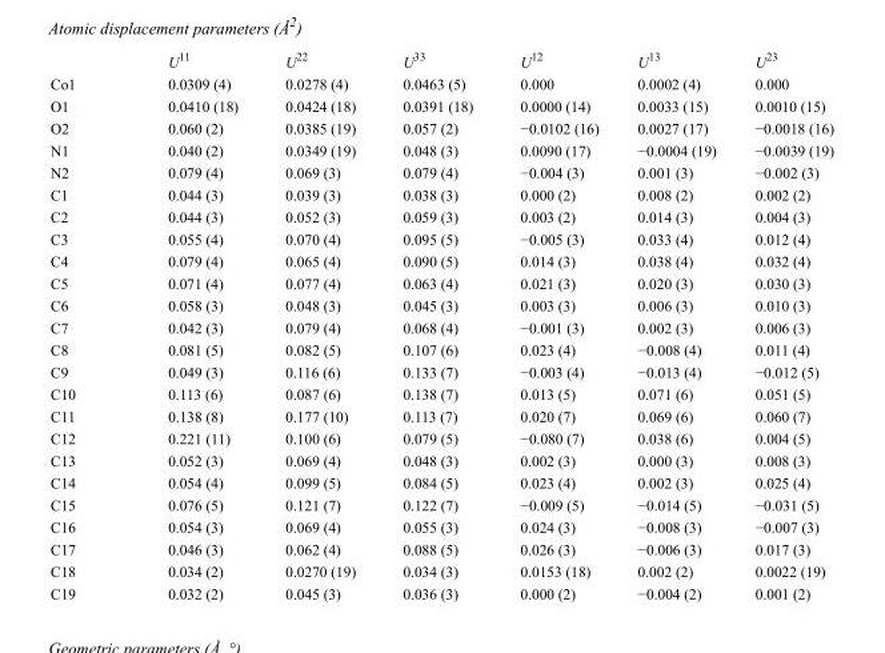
<table><thead><tr><td></td><td>U<sup>11</sup></td><td>U<sup>22</sup></td><td>U<sup>33</sup></td><td>U<sup>12</sup></td><td>U<sup>13</sup></td><td>U<sup>23</sup></td></tr></thead><tbody><tr><td>Co1</td><td>0.0309 (4)</td><td>0.0278 (4)</td><td>0.0463 (5)</td><td>0.000</td><td>0.0002 (4)</td><td>0.000</td></tr><tr><td>O1</td><td>0.0410 (18)</td><td>0.0424 (18)</td><td>0.0391 (18)</td><td>0.0000 (14)</td><td>0.0033 (15)</td><td>0.0010 (15)</td></tr><tr><td>O2</td><td>0.060 (2)</td><td>0.0385 (19)</td><td>0.057 (2)</td><td>−0.0102 (16)</td><td>0.0027 (17)</td><td>−0.0018 (16)</td></tr><tr><td>N1</td><td>0.040 (2)</td><td>0.0349 (19)</td><td>0.048 (3)</td><td>0.0090 (17)</td><td>−0.0004 (19)</td><td>−0.0039 (19)</td></tr><tr><td>N2</td><td>0.079 (4)</td><td>0.069 (3)</td><td>0.079 (4)</td><td>−0.004 (3)</td><td>0.001 (3)</td><td>−0.002 (3)</td></tr><tr><td>C1</td><td>0.044 (3)</td><td>0.039 (3)</td><td>0.038 (3)</td><td>0.000 (2)</td><td>0.008 (2)</td><td>0.002 (2)</td></tr><tr><td>C2</td><td>0.044 (3)</td><td>0.052 (3)</td><td>0.059 (3)</td><td>0.003 (2)</td><td>0.014 (3)</td><td>0.004 (3)</td></tr><tr><td>C3</td><td>0.055 (4)</td><td>0.070 (4)</td><td>0.095 (5)</td><td>−0.005 (3)</td><td>0.033 (4)</td><td>0.012 (4)</td></tr><tr><td>C4</td><td>0.079 (4)</td><td>0.065 (4)</td><td>0.090 (5)</td><td>0.014 (3)</td><td>0.038 (4)</td><td>0.032 (4)</td></tr><tr><td>C5</td><td>0.071 (4)</td><td>0.077 (4)</td><td>0.063 (4)</td><td>0.021 (3)</td><td>0.020 (3)</td><td>0.030 (3)</td></tr><tr><td>C6</td><td>0.058 (3)</td><td>0.048 (3)</td><td>0.045 (3)</td><td>0.003 (3)</td><td>0.006 (3)</td><td>0.010 (3)</td></tr><tr><td>C7</td><td>0.042 (3)</td><td>0.079 (4)</td><td>0.068 (4)</td><td>−0.001 (3)</td><td>0.002 (3)</td><td>0.006 (3)</td></tr><tr><td>C8</td><td>0.081 (5)</td><td>0.082 (5)</td><td>0.107 (6)</td><td>0.023 (4)</td><td>−0.008 (4)</td><td>0.011 (4)</td></tr><tr><td>C9</td><td>0.049 (3)</td><td>0.116 (6)</td><td>0.133 (7)</td><td>−0.003 (4)</td><td>−0.013 (4)</td><td>−0.012 (5)</td></tr><tr><td>C10</td><td>0.113 (6)</td><td>0.087 (6)</td><td>0.138 (7)</td><td>0.013 (5)</td><td>0.071 (6)</td><td>0.051 (5)</td></tr><tr><td>C11</td><td>0.138 (8)</td><td>0.177 (10)</td><td>0.113 (7)</td><td>0.020 (7)</td><td>0.069 (6)</td><td>0.060 (7)</td></tr><tr><td>C12</td><td>0.221 (11)</td><td>0.100 (6)</td><td>0.079 (5)</td><td>−0.080 (7)</td><td>0.038 (6)</td><td>0.004 (5)</td></tr><tr><td>C13</td><td>0.052 (3)</td><td>0.069 (4)</td><td>0.048 (3)</td><td>0.002 (3)</td><td>0.000 (3)</td><td>0.008 (3)</td></tr><tr><td>C14</td><td>0.054 (4)</td><td>0.099 (5)</td><td>0.084 (5)</td><td>0.023 (4)</td><td>0.002 (3)</td><td>0.025 (4)</td></tr><tr><td>C15</td><td>0.076 (5)</td><td>0.121 (7)</td><td>0.122 (7)</td><td>−0.009 (5)</td><td>−0.014 (5)</td><td>−0.031 (5)</td></tr><tr><td>C16</td><td>0.054 (3)</td><td>0.069 (4)</td><td>0.055 (3)</td><td>0.024 (3)</td><td>−0.008 (3)</td><td>−0.007 (3)</td></tr><tr><td>C17</td><td>0.046 (3)</td><td>0.062 (4)</td><td>0.088 (5)</td><td>0.026 (3)</td><td>−0.006 (3)</td><td>0.017 (3)</td></tr><tr><td>C18</td><td>0.034 (2)</td><td>0.0270 (19)</td><td>0.034 (3)</td><td>0.0153 (18)</td><td>0.002 (2)</td><td>0.0022 (19)</td></tr><tr><td>C19</td><td>0.032 (2)</td><td>0.045 (3)</td><td>0.036 (3)</td><td>0.000 (2)</td><td>−0.004 (2)</td><td>0.001 (2)</td></tr></tbody></table>